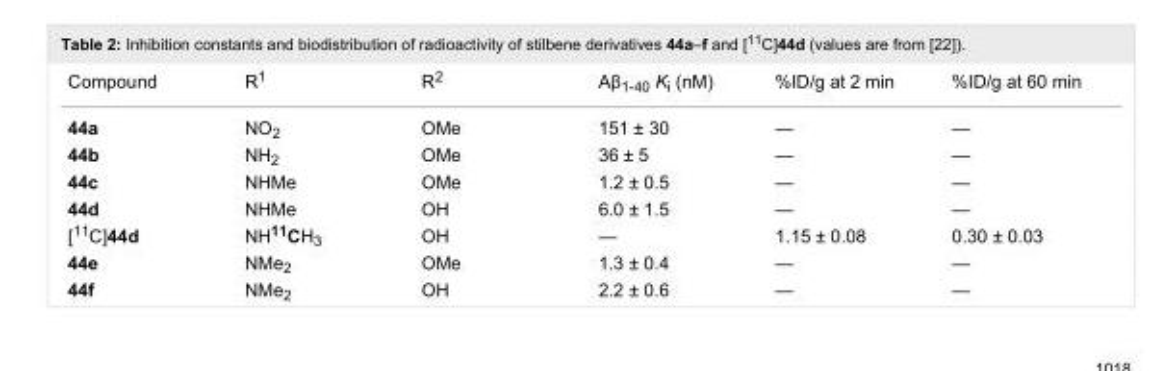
<table><tbody><tr><td>Compound</td><td>R<sup>1</sup></td><td>R<sup>2</sup></td><td>Aβ<sub>1-40</sub> K<sub>i</sub> (nM)</td><td>%ID/g at 2 min</td><td>%ID/g at 60 min</td></tr><tr><td>44a</td><td>NO<sub>2</sub></td><td>OMe</td><td>151 ± 30</td><td>—</td><td>—</td></tr><tr><td>44b</td><td>NH<sub>2</sub></td><td>OMe</td><td>36 ± 5</td><td>—</td><td>—</td></tr><tr><td>44c</td><td>NHMe</td><td>OMe</td><td>1.2 ± 0.5</td><td>—</td><td>—</td></tr><tr><td>44d</td><td>NHMe</td><td>OH</td><td>6.0 ± 1.5</td><td>—</td><td>—</td></tr><tr><td>[<sup>11</sup>C]44d</td><td>NH<sup>11</sup>CH<sub>3</sub></td><td>OH</td><td>—</td><td>1.15 ± 0.08</td><td>0.30 ± 0.03</td></tr><tr><td>44e</td><td>NMe<sub>2</sub></td><td>OMe</td><td>1.3 ± 0.4</td><td>—</td><td>—</td></tr><tr><td>44f</td><td>NMe<sub>2</sub></td><td>OH</td><td>2.2 ± 0.6</td><td>—</td><td>—</td></tr></tbody></table>